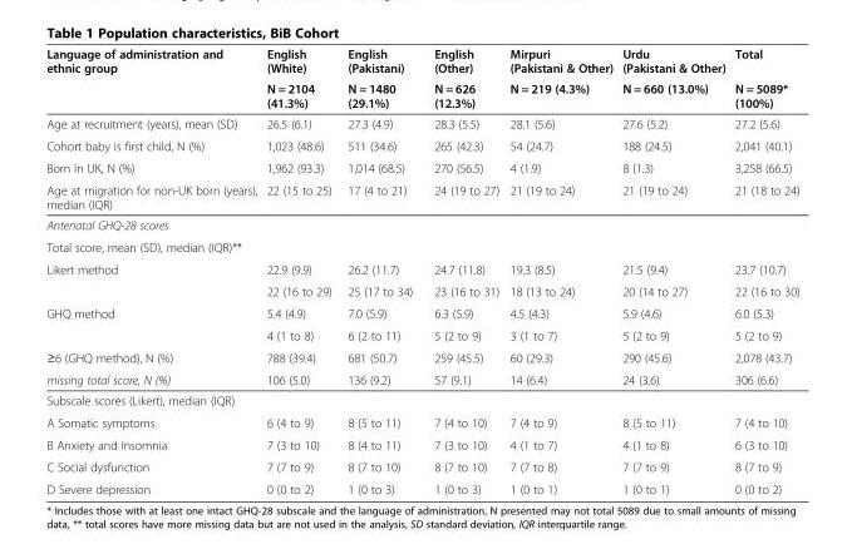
<table><thead><tr><td rowspan="2">Language of administration and ethnic group</td><td rowspan="2">English (White) N = 2104 (41.3%)</td><td rowspan="2">English (Pakistani) N = 1480 (29.1%)</td><td rowspan="2">English (Other) N = 626 (12.3%)</td><td rowspan="2">Mirpuri (Pakistani &amp; Other) N = 219 (4.3%)</td><td rowspan="2">Urdu (Pakistani &amp; Other) N = 660 (13.0%)</td><td rowspan="2">Total N = 5089* (100%)</td></tr><tr></tr></thead><tbody><tr><td>Age at recruitment (years), mean (SD)</td><td>26.5 (6.1)</td><td>27.3 (4.9)</td><td>28.3 (5.5)</td><td>28.1 (5.6)</td><td>27.6 (5.2)</td><td>27.2 (5.6)</td></tr><tr><td>Cohort baby is first child, N (%)</td><td>1,023 (48.6)</td><td>511 (34.6)</td><td>265 (42.3)</td><td>54 (24.7)</td><td>188 (24.5)</td><td>2,041 (40.1)</td></tr><tr><td>Born in UK, N (%)</td><td>1,962 (93.3)</td><td>1,014 (68.5)</td><td>270 (56.5)</td><td>4 (1.9)</td><td>8 (1.3)</td><td>3,258 (66.5)</td></tr><tr><td>Age at migration for non-UK born (years), median (IQR)</td><td>22 (15 to 25)</td><td>17 (4 to 21)</td><td>24 (19 to 27)</td><td>21 (19 to 24)</td><td>21 (19 to 24)</td><td>21 (18 to 24)</td></tr><tr><td colspan="7">Antenatal GHQ-28 scores</td></tr><tr><td colspan="7">Total score, mean (SD), median (IQR)**</td></tr><tr><td rowspan="2">Likert method</td><td>22.9 (9.9)</td><td>26.2 (11.7)</td><td>24.7 (11.8)</td><td>19.3 (8.5)</td><td>21.5 (9.4)</td><td>23.7 (10.7)</td></tr><tr><td>22 (16 to 29)</td><td>25 (17 to 34)</td><td>23 (16 to 31)</td><td>18 (13 to 24)</td><td>20 (14 to 27)</td><td>22 (16 to 30)</td></tr><tr><td rowspan="2">GHQ method</td><td>5.4 (4.9)</td><td>7.0 (5.9)</td><td>6.3 (5.9)</td><td>4.5 (4.3)</td><td>5.9 (4.6)</td><td>6.0 (5.3)</td></tr><tr><td>4 (1 to 8)</td><td>6 (2 to 11)</td><td>5 (2 to 9)</td><td>3 (1 to 7)</td><td>5 (2 to 9)</td><td>5 (2 to 9)</td></tr><tr><td>≥6 (GHQ method), N (%)</td><td>788 (39.4)</td><td>681 (50.7)</td><td>259 (45.5)</td><td>60 (29.3)</td><td>290 (45.6)</td><td>2,078 (43.7)</td></tr><tr><td>missing total score, N (%)</td><td>106 (5.0)</td><td>136 (9.2)</td><td>57 (9.1)</td><td>14 (6.4)</td><td>24 (3.6)</td><td>306 (6.6)</td></tr><tr><td colspan="7">Subscale scores (Likert), median (IQR)</td></tr><tr><td>A Somatic symptoms</td><td>6 (4 to 9)</td><td>8 (5 to 11)</td><td>7 (4 to 10)</td><td>7 (4 to 9)</td><td>8 (5 to 11)</td><td>7 (4 to 10)</td></tr><tr><td>B Anxiety and Insomnia</td><td>7 (3 to 10)</td><td>8 (4 to 11)</td><td>7 (3 to 10)</td><td>4 (1 to 7)</td><td>4 (1 to 8)</td><td>6 (3 to 10)</td></tr><tr><td>C Social dysfunction</td><td>7 (7 to 9)</td><td>8 (7 to 10)</td><td>8 (7 to 10)</td><td>7 (7 to 8)</td><td>7 (7 to 9)</td><td>8 (7 to 9)</td></tr><tr><td>D Severe depression</td><td>0 (0 to 2)</td><td>1 (0 to 3)</td><td>1 (0 to 3)</td><td>1 (0 to 1)</td><td>1 (0 to 1)</td><td>0 (0 to 2)</td></tr></tbody></table>